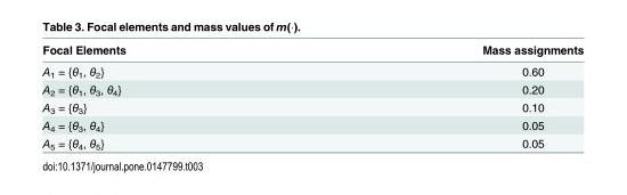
<table><thead><tr><td>Focal Elements</td><td>Mass assignments</td></tr></thead><tbody><tr><td>A<sub>1</sub> = {θ<sub>1</sub>, θ<sub>2</sub>}</td><td>0.60</td></tr><tr><td>A<sub>2</sub> = {θ<sub>1</sub>, θ<sub>3</sub>, θ<sub>4</sub>}</td><td>0.20</td></tr><tr><td>A<sub>3</sub> = {θ<sub>3</sub>}</td><td>0.10</td></tr><tr><td>A<sub>4</sub> = {θ<sub>3</sub>, θ<sub>4</sub>}</td><td>0.05</td></tr><tr><td>A<sub>5</sub> = {θ<sub>4</sub>, θ<sub>5</sub>}</td><td>0.05</td></tr></tbody></table>